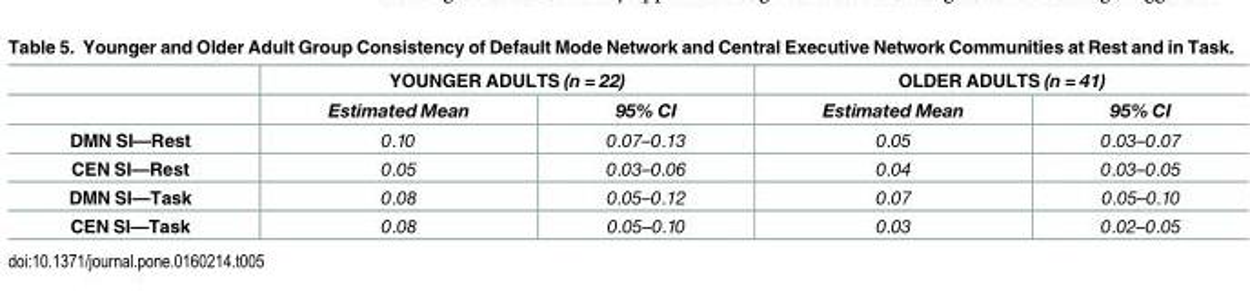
<table><thead><tr><td rowspan="2"></td><td colspan="2">YOUNGER ADULTS (n = 22)</td><td colspan="2">OLDER ADULTS (n = 41)</td></tr><tr><td>Estimated Mean</td><td>95% CI</td><td>Estimated Mean</td><td>95% CI</td></tr></thead><tbody><tr><td>DMN SI—Rest</td><td>0.10</td><td>0.07–0.13</td><td>0.05</td><td>0.03–0.07</td></tr><tr><td>CEN SI—Rest</td><td>0.05</td><td>0.03–0.06</td><td>0.04</td><td>0.03–0.05</td></tr><tr><td>DMN SI—Task</td><td>0.08</td><td>0.05–0.12</td><td>0.07</td><td>0.05–0.10</td></tr><tr><td>CEN SI—Task</td><td>0.08</td><td>0.05–0.10</td><td>0.03</td><td>0.02–0.05</td></tr></tbody></table>